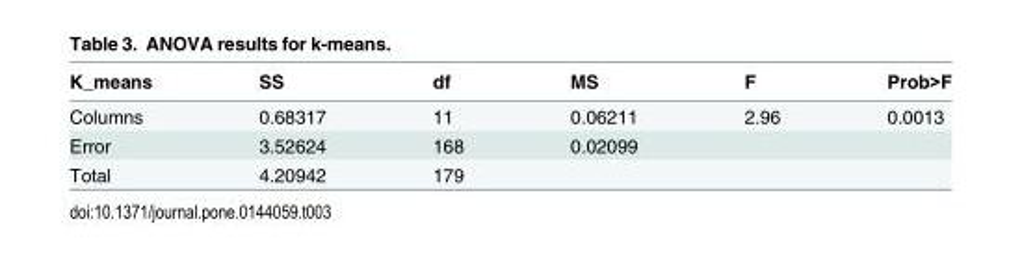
<table><thead><tr><td>K_means</td><td>SS</td><td>df</td><td>MS</td><td>F</td><td>Prob&gt;F</td></tr></thead><tbody><tr><td>Columns</td><td>0.68317</td><td>11</td><td>0.06211</td><td>2.96</td><td>0.0013</td></tr><tr><td>Error</td><td>3.52624</td><td>168</td><td>0.02099</td><td></td><td></td></tr><tr><td>Total</td><td>4.20942</td><td>179</td><td></td><td></td><td></td></tr></tbody></table>